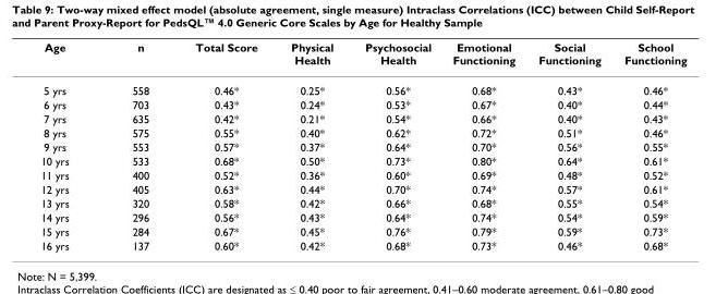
<table><thead><tr><td>Age</td><td>n</td><td>Total Score</td><td>Physical Health</td><td>Psychosocial Health</td><td>Emotional Functioning</td><td>Social Functioning</td><td>School Functioning</td></tr></thead><tbody><tr><td>5 yrs</td><td>558</td><td>0.46*</td><td>0.25*</td><td>0.56*</td><td>0.68*</td><td>0.43*</td><td>0.46*</td></tr><tr><td>6 yrs</td><td>703</td><td>0.43*</td><td>0.24*</td><td>0.53*</td><td>0.67*</td><td>0.40*</td><td>0.44*</td></tr><tr><td>7 yrs</td><td>635</td><td>0.42*</td><td>0.21*</td><td>0.54*</td><td>0.66*</td><td>0.40*</td><td>0.43*</td></tr><tr><td>8 yrs</td><td>575</td><td>0.55*</td><td>0.40*</td><td>0.62*</td><td>0.72*</td><td>0.51*</td><td>0.46*</td></tr><tr><td>9 yrs</td><td>553</td><td>0.57*</td><td>0.37*</td><td>0.64*</td><td>0.70*</td><td>0.56*</td><td>0.55*</td></tr><tr><td>10 yrs</td><td>533</td><td>0.68*</td><td>0.50*</td><td>0.73*</td><td>0.80*</td><td>0.64*</td><td>0.61*</td></tr><tr><td>11 yrs</td><td>400</td><td>0.52*</td><td>0.36*</td><td>0.60*</td><td>0.69*</td><td>0.48*</td><td>0.52*</td></tr><tr><td>12 yrs</td><td>405</td><td>0.63*</td><td>0.44*</td><td>0.70*</td><td>0.74*</td><td>0.57*</td><td>0.61*</td></tr><tr><td>13 yrs</td><td>320</td><td>0.58*</td><td>0.42*</td><td>0.66*</td><td>0.68*</td><td>0.55*</td><td>0.54*</td></tr><tr><td>14 yrs</td><td>296</td><td>0.56*</td><td>0.43*</td><td>0.64*</td><td>0.74*</td><td>0.54*</td><td>0.59*</td></tr><tr><td>15 yrs</td><td>284</td><td>0.67*</td><td>0.45*</td><td>0.76*</td><td>0.79*</td><td>0.59*</td><td>0.73*</td></tr><tr><td>16 yrs</td><td>137</td><td>0.60*</td><td>0.42*</td><td>0.68*</td><td>0.73*</td><td>0.46*</td><td>0.68*</td></tr></tbody></table>